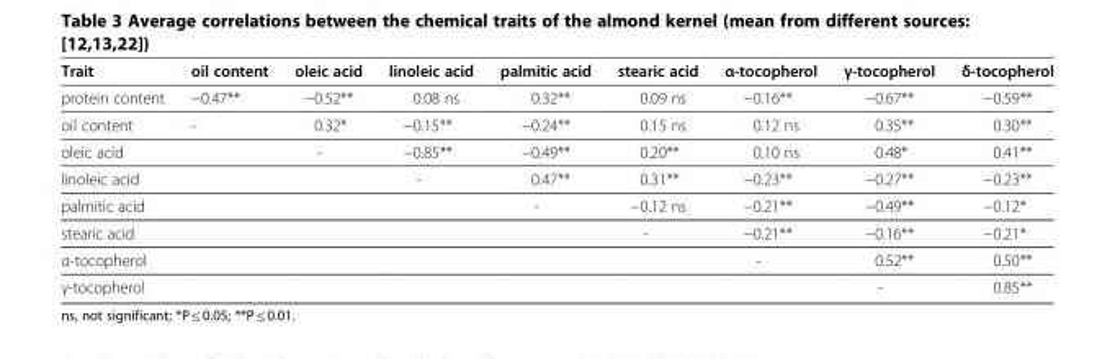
<table><thead><tr><td>Trait</td><td>oil content</td><td>oleic acid</td><td>linoleic acid</td><td>palmitic acid</td><td>stearic acid</td><td>α-tocopherol</td><td>γ-tocopherol</td><td>δ-tocopherol</td></tr></thead><tbody><tr><td>protein content</td><td>−0.47**</td><td>−0.52**</td><td>0.08 ns</td><td>0.32**</td><td>0.09 ns</td><td>−0.16**</td><td>−0.67**</td><td>−0.59**</td></tr><tr><td>oil content</td><td>-</td><td>0.32*</td><td>−0.15**</td><td>−0.24**</td><td>0.15 ns</td><td>0.12 ns</td><td>0.35**</td><td>0.30**</td></tr><tr><td>oleic acid</td><td></td><td>-</td><td>−0.85**</td><td>−0.49**</td><td>0.20**</td><td>0.10 ns</td><td>0.48*</td><td>0.41**</td></tr><tr><td>linoleic acid</td><td></td><td></td><td>-</td><td>0.47**</td><td>0.31**</td><td>−0.23**</td><td>−0.27**</td><td>−0.23**</td></tr><tr><td>palmitic acid</td><td></td><td></td><td></td><td>-</td><td>−0.12 ns</td><td>−0.21**</td><td>−0.49**</td><td>−0.12*</td></tr><tr><td>stearic acid</td><td></td><td></td><td></td><td></td><td>-</td><td>−0.21**</td><td>−0.16**</td><td>−0.21*</td></tr><tr><td>α-tocopherol</td><td></td><td></td><td></td><td></td><td></td><td>-</td><td>0.52**</td><td>0.50**</td></tr><tr><td>γ-tocopherol</td><td></td><td></td><td></td><td></td><td></td><td></td><td>-</td><td>0.85**</td></tr></tbody></table>